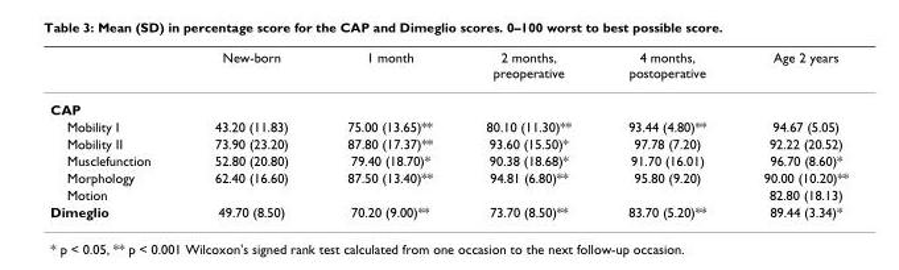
<table><thead><tr><td></td><td>New-born</td><td>1 month</td><td>2 months, preoperative</td><td>4 months, postoperative</td><td>Age 2 years</td></tr></thead><tbody><tr><td colspan="6">CAP</td></tr><tr><td>Mobility I</td><td>43.20 (11.83)</td><td>75.00 (13.65)**</td><td>80.10 (11.30)**</td><td>93.44 (4.80)**</td><td>94.67 (5.05)</td></tr><tr><td>Mobility II</td><td>73.90 (23.20)</td><td>87.80 (17.37)**</td><td>93.60 (15.50)*</td><td>97.78 (7.20)</td><td>92.22 (20.52)</td></tr><tr><td>Musclefunction</td><td>52.80 (20.80)</td><td>79.40 (18.70)*</td><td>90.38 (18.68)*</td><td>91.70 (16.01)</td><td>96.70 (8.60)*</td></tr><tr><td>Morphology</td><td>62.40 (16.60)</td><td>87.50 (13.40)**</td><td>94.81 (6.80)**</td><td>95.80 (9.20)</td><td>90.00 (10.20)**</td></tr><tr><td>Motion</td><td></td><td></td><td></td><td></td><td>82.80 (18.13)</td></tr><tr><td>Dimeglio</td><td>49.70 (8.50)</td><td>70.20 (9.00)**</td><td>73.70 (8.50)**</td><td>83.70 (5.20)**</td><td>89.44 (3.34)*</td></tr></tbody></table>